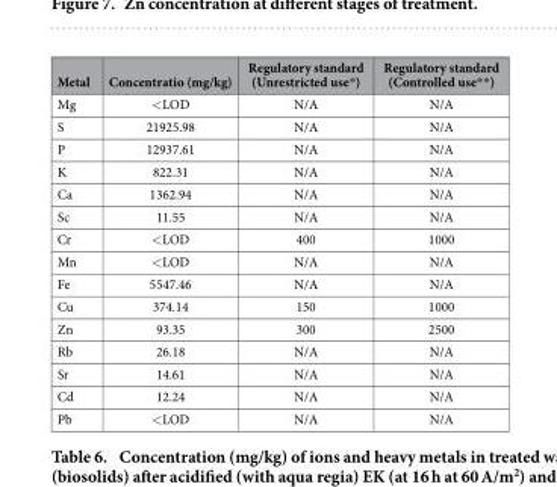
<table><thead><tr><td>Metal</td><td>Concentratio (mg/kg)</td><td>Regulatory standard (Unrestricted use* )</td><td>Regulatory standard (Controlled use* * )</td></tr></thead><tbody><tr><td>Mg</td><td>&lt; LOD</td><td>N/A</td><td>N/A</td></tr><tr><td>S</td><td>21925.98</td><td>N/A</td><td>N/A</td></tr><tr><td>P</td><td>12937.61</td><td>N/A</td><td>N/A</td></tr><tr><td>K</td><td>822.31</td><td>N/A</td><td>N/A</td></tr><tr><td>Ca</td><td>1362.94</td><td>N/A</td><td>N/A</td></tr><tr><td>Sc</td><td>11.55</td><td>N/A</td><td>N/A</td></tr><tr><td>Cr</td><td>&lt; LOD</td><td>400</td><td>1000</td></tr><tr><td>Mn</td><td>&lt; LOD</td><td>N/A</td><td>N/A</td></tr><tr><td>Fe</td><td>5547.46</td><td>N/A</td><td>N/A</td></tr><tr><td>Cu</td><td>374.14</td><td>150</td><td>1000</td></tr><tr><td>Zn</td><td>93.35</td><td>300</td><td>2500</td></tr><tr><td>Rb</td><td>26.18</td><td>N/A</td><td>N/A</td></tr><tr><td>Sr</td><td>14.61</td><td>N/A</td><td>N/A</td></tr><tr><td>Cd</td><td>12.24</td><td>N/A</td><td>N/A</td></tr><tr><td>Pb</td><td>&lt; LOD</td><td>N/A</td><td>N/A</td></tr></tbody></table>